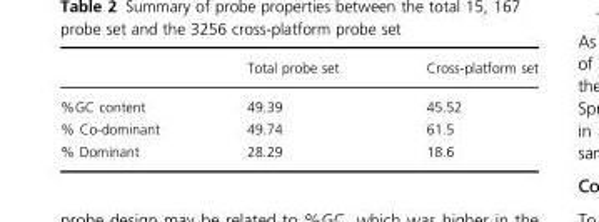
<table><thead><tr><td></td><td>Total probe set</td><td>Cross-platform set</td></tr></thead><tbody><tr><td>%GC content</td><td>49.39</td><td>45.52</td></tr><tr><td>% Co-dominant</td><td>49.74</td><td>61.5</td></tr><tr><td>% Dominant</td><td>28.29</td><td>18.6</td></tr></tbody></table>